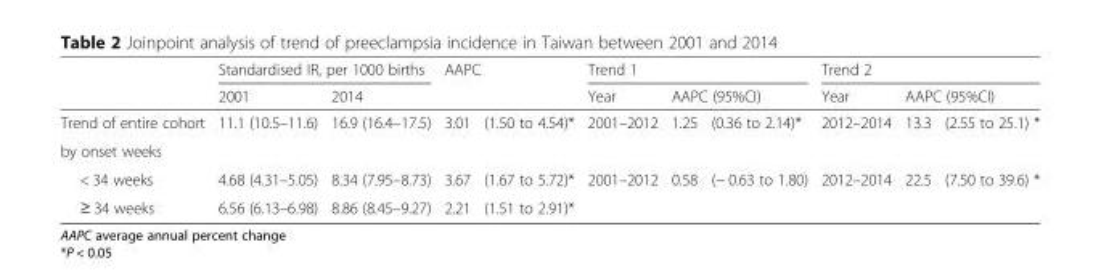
<table><thead><tr><td rowspan="3">Trend of entire cohort</td><td colspan="2">Standardised IR, per 1000 births</td><td rowspan="2" colspan="2">AAPC</td><td colspan="3">Trend 1</td><td colspan="3">Trend 2</td></tr><tr><td rowspan="2">2001 11.1 (10.5–11.6)</td><td rowspan="2">2014 16.9 (16.4–17.5)</td><td rowspan="2">Year 2001–2012</td><td colspan="2">AAPC (95%CI)</td><td rowspan="2">Year 2012–2014</td><td colspan="2">AAPC (95%CI)</td></tr><tr><td>3.01</td><td>(1.50 to 4.54)*</td><td>1.25</td><td>(0.36 to 2.14)*</td><td>13.3</td><td>(2.55 to 25.1) *</td></tr></thead><tbody><tr><td colspan="11">by onset weeks</td></tr><tr><td>&lt; 34 weeks</td><td>4.68 (4.31–5.05)</td><td>8.34 (7.95–8.73)</td><td>3.67</td><td>(1.67 to 5.72)*</td><td>2001–2012</td><td>0.58</td><td>(− 0.63 to 1.80)</td><td>2012–2014</td><td>22.5</td><td>(7.50 to 39.6) *</td></tr><tr><td>≥ 34 weeks</td><td>6.56 (6.13–6.98)</td><td>8.86 (8.45–9.27)</td><td>2.21</td><td>(1.51 to 2.91)*</td><td></td><td></td><td></td><td></td><td></td><td></td></tr></tbody></table>